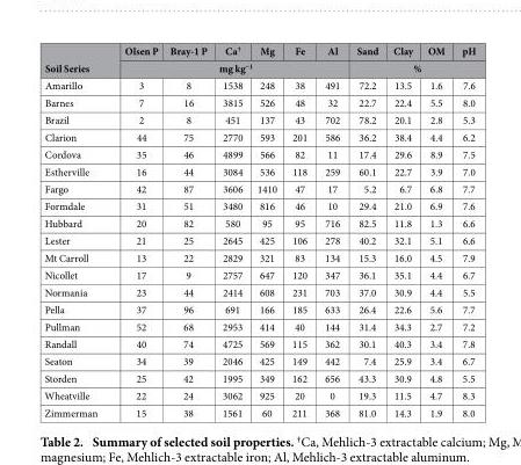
<table><thead><tr><td rowspan="2">Soil Series</td><td>Olsen P</td><td>Bray-1 P</td><td>Ca†</td><td>Mg</td><td>Fe</td><td>Al</td><td>Sand</td><td>Clay</td><td>OM</td><td>pH</td></tr><tr><td colspan="6">mg kg<sup>−1</sup></td><td colspan="4">%</td></tr></thead><tbody><tr><td>Amarillo</td><td>3</td><td>8</td><td>1538</td><td>248</td><td>38</td><td>491</td><td>72.2</td><td>13.5</td><td>1.6</td><td>7.6</td></tr><tr><td>Barnes</td><td>7</td><td>16</td><td>3815</td><td>526</td><td>48</td><td>32</td><td>22.7</td><td>22.4</td><td>5.5</td><td>8.0</td></tr><tr><td>Brazil</td><td>2</td><td>8</td><td>451</td><td>137</td><td>43</td><td>702</td><td>78.2</td><td>20.1</td><td>2.8</td><td>5.3</td></tr><tr><td>Clarion</td><td>44</td><td>75</td><td>2770</td><td>593</td><td>201</td><td>586</td><td>36.2</td><td>38.4</td><td>4.4</td><td>6.2</td></tr><tr><td>Cordova</td><td>35</td><td>46</td><td>4899</td><td>566</td><td>82</td><td>11</td><td>17.4</td><td>29.6</td><td>8.9</td><td>7.5</td></tr><tr><td>Estherville</td><td>16</td><td>44</td><td>3084</td><td>536</td><td>118</td><td>259</td><td>60.1</td><td>22.7</td><td>3.9</td><td>7.0</td></tr><tr><td>Fargo</td><td>42</td><td>87</td><td>3606</td><td>1410</td><td>47</td><td>17</td><td>5.2</td><td>6.7</td><td>6.8</td><td>7.7</td></tr><tr><td>Formdale</td><td>31</td><td>51</td><td>3480</td><td>816</td><td>46</td><td>10</td><td>29.4</td><td>21.0</td><td>6.9</td><td>7.6</td></tr><tr><td>Hubbard</td><td>20</td><td>82</td><td>580</td><td>95</td><td>95</td><td>716</td><td>82.5</td><td>11.8</td><td>1.3</td><td>6.6</td></tr><tr><td>Lester</td><td>21</td><td>25</td><td>2645</td><td>425</td><td>106</td><td>278</td><td>40.2</td><td>32.1</td><td>5.1</td><td>6.6</td></tr><tr><td>Mt Carroll</td><td>13</td><td>22</td><td>2829</td><td>321</td><td>83</td><td>134</td><td>15.3</td><td>16.0</td><td>4.5</td><td>7.9</td></tr><tr><td>Nicollet</td><td>17</td><td>9</td><td>2757</td><td>647</td><td>120</td><td>347</td><td>36.1</td><td>35.1</td><td>4.4</td><td>6.7</td></tr><tr><td>Normania</td><td>23</td><td>44</td><td>2414</td><td>608</td><td>231</td><td>703</td><td>37.0</td><td>30.9</td><td>4.4</td><td>5.5</td></tr><tr><td>Pella</td><td>37</td><td>96</td><td>691</td><td>166</td><td>185</td><td>633</td><td>26.4</td><td>22.6</td><td>5.6</td><td>7.7</td></tr><tr><td>Pullman</td><td>52</td><td>68</td><td>2953</td><td>414</td><td>40</td><td>144</td><td>31.4</td><td>34.3</td><td>2.7</td><td>7.2</td></tr><tr><td>Randall</td><td>40</td><td>74</td><td>4725</td><td>569</td><td>115</td><td>362</td><td>30.1</td><td>40.3</td><td>3.4</td><td>7.8</td></tr><tr><td>Seaton</td><td>34</td><td>39</td><td>2046</td><td>425</td><td>149</td><td>442</td><td>7.4</td><td>25.9</td><td>3.4</td><td>6.7</td></tr><tr><td>Storden</td><td>25</td><td>42</td><td>1995</td><td>349</td><td>162</td><td>656</td><td>43.3</td><td>30.9</td><td>4.8</td><td>5.5</td></tr><tr><td>Wheatville</td><td>22</td><td>24</td><td>3062</td><td>925</td><td>20</td><td>0</td><td>19.3</td><td>11.5</td><td>4.7</td><td>8.3</td></tr><tr><td>Zimmerman</td><td>15</td><td>38</td><td>1561</td><td>60</td><td>211</td><td>368</td><td>81.0</td><td>14.3</td><td>1.9</td><td>8.0</td></tr></tbody></table>